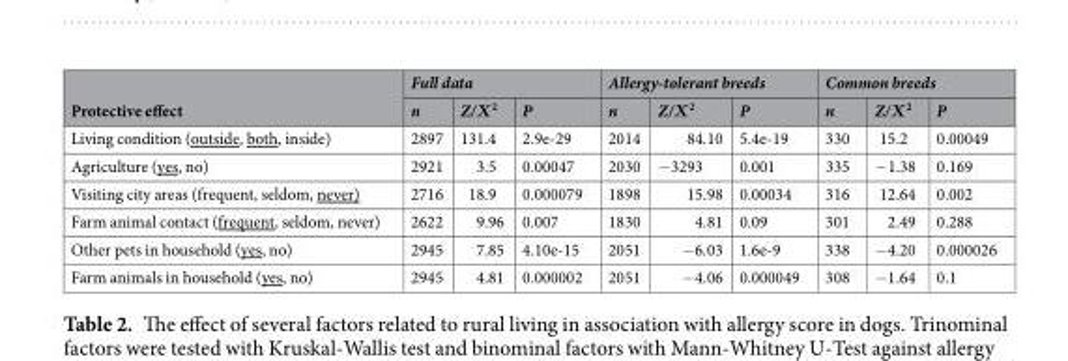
<table><thead><tr><td rowspan="2">Protective effect</td><td colspan="3">Full data</td><td colspan="3">Allergy-tolerant breeds</td><td colspan="3">Common breeds</td></tr><tr><td>n</td><td>Z/Χ<sup>2</sup></td><td>P</td><td>n</td><td>Z/Χ<sup>2</sup></td><td>P</td><td>n</td><td>Z/Χ<sup>2</sup></td><td>P</td></tr></thead><tbody><tr><td>Living condition (outside, both, inside)</td><td>2897</td><td>131.4</td><td>2.9e-29</td><td>2014</td><td>84.10</td><td>5.4e-19</td><td>330</td><td>15.2</td><td>0.00049</td></tr><tr><td>Agriculture (yes, no)</td><td>2921</td><td>3.5</td><td>0.00047</td><td>2030</td><td>−3293</td><td>0.001</td><td>335</td><td>−1.38</td><td>0.169</td></tr><tr><td>Visiting city areas (frequent, seldom, never)</td><td>2716</td><td>18.9</td><td>0.000079</td><td>1898</td><td>15.98</td><td>0.00034</td><td>316</td><td>12.64</td><td>0.002</td></tr><tr><td>Farm animal contact (frequent, seldom, never)</td><td>2622</td><td>9.96</td><td>0.007</td><td>1830</td><td>4.81</td><td>0.09</td><td>301</td><td>2.49</td><td>0.288</td></tr><tr><td>Other pets in household (yes, no)</td><td>2945</td><td>7.85</td><td>4.10e-15</td><td>2051</td><td>−6.03</td><td>1.6e-9</td><td>338</td><td>−4.20</td><td>0.000026</td></tr><tr><td>Farm animals in household (yes, no)</td><td>2945</td><td>4.81</td><td>0.000002</td><td>2051</td><td>−4.06</td><td>0.000049</td><td>308</td><td>−1.64</td><td>0.1</td></tr></tbody></table>